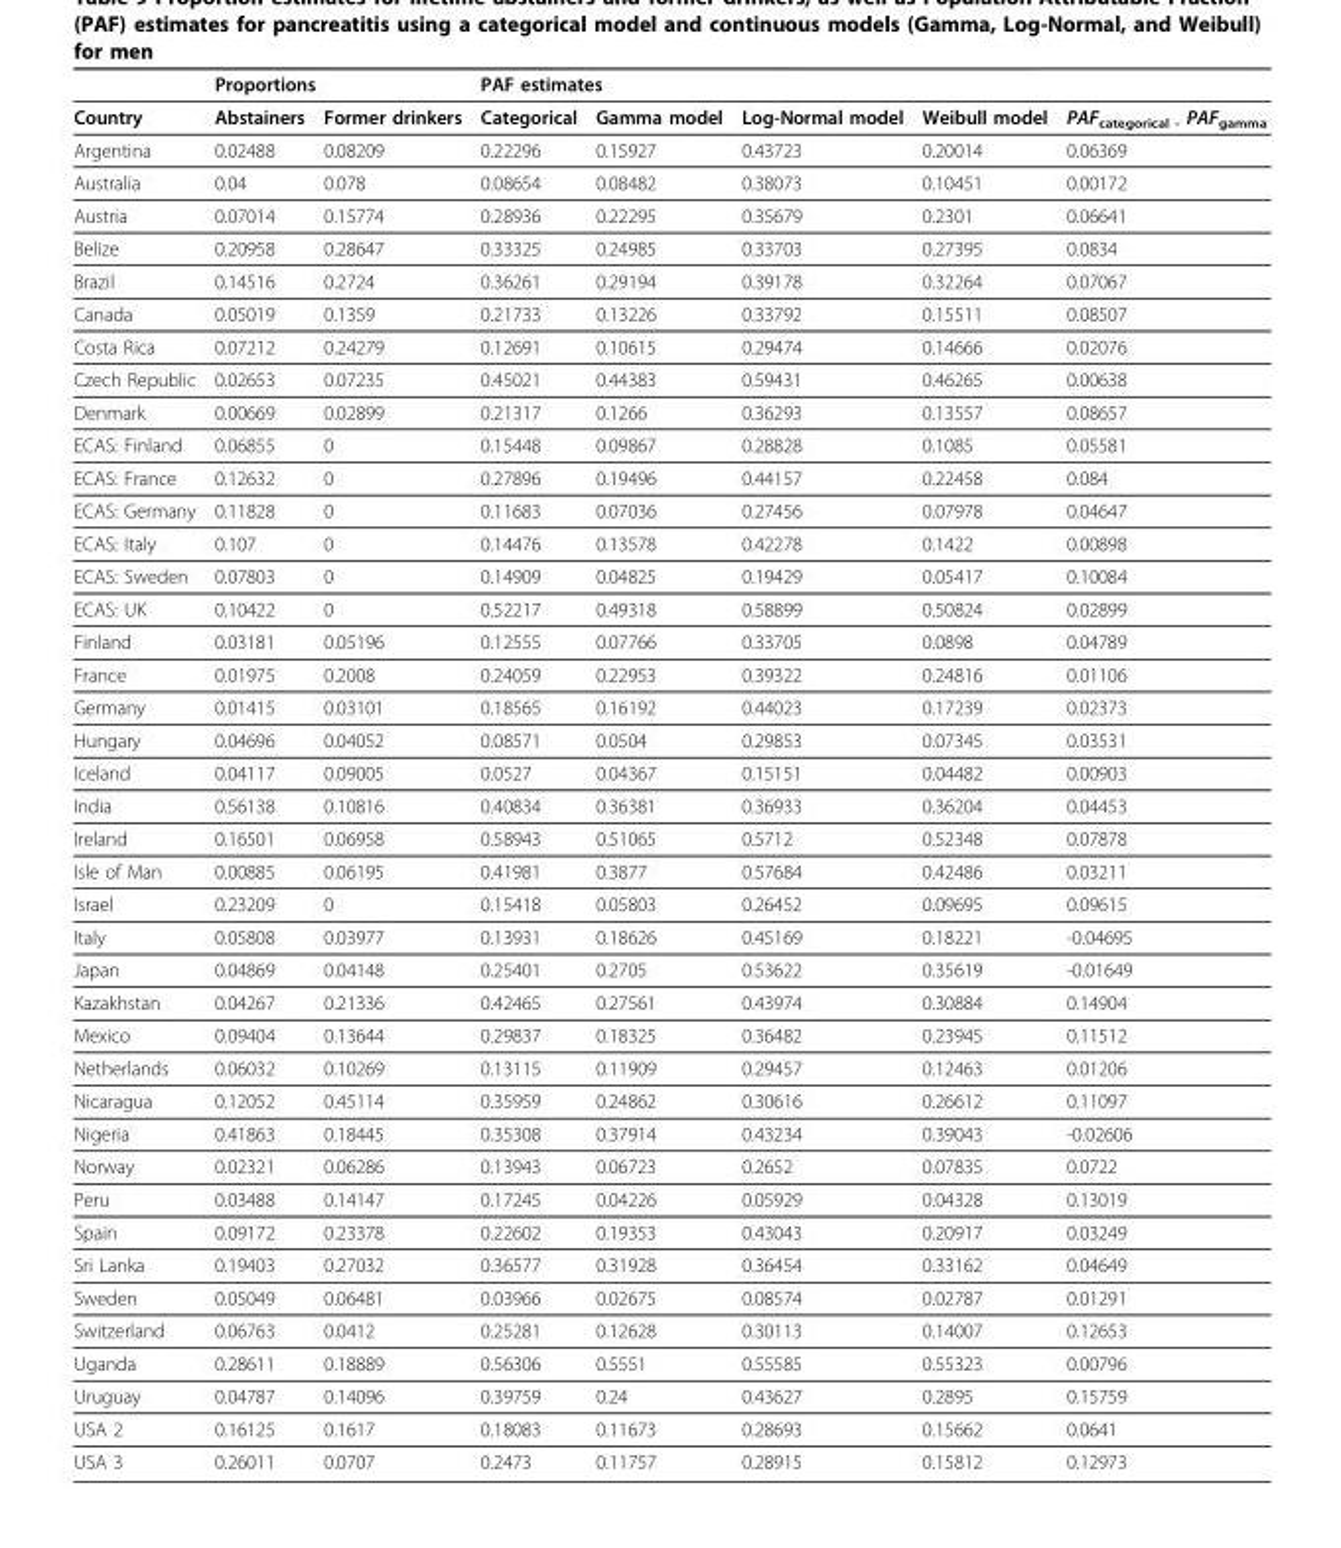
<table><thead><tr><td rowspan="2">Country</td><td colspan="2">Proportions</td><td colspan="4">PAF estimates</td><td rowspan="2">PAFcategorical - PAFgamma</td></tr><tr><td>Abstainers</td><td>Former drinkers</td><td>Categorical</td><td>Gamma model</td><td>Log-Normal model</td><td>Weibull model</td></tr></thead><tbody><tr><td>Argentina</td><td>0.02488</td><td>0.08209</td><td>0.22296</td><td>0.15927</td><td>0.43723</td><td>0.20014</td><td>0.06369</td></tr><tr><td>Australia</td><td>0.04</td><td>0.078</td><td>0.08654</td><td>0.08482</td><td>0.38073</td><td>0.10451</td><td>0.00172</td></tr><tr><td>Austria</td><td>0.07014</td><td>0.15774</td><td>0.28936</td><td>0.22295</td><td>0.35679</td><td>0.2301</td><td>0.06641</td></tr><tr><td>Belize</td><td>0.20958</td><td>0.28647</td><td>0.33325</td><td>0.24985</td><td>0.33703</td><td>0.27395</td><td>0.0834</td></tr><tr><td>Brazil</td><td>0.14516</td><td>0.2724</td><td>0.36261</td><td>0.29194</td><td>0.39178</td><td>0.32264</td><td>0.07067</td></tr><tr><td>Canada</td><td>0.05019</td><td>0.1359</td><td>0.21733</td><td>0.13226</td><td>0.33792</td><td>0.15511</td><td>0.08507</td></tr><tr><td>Costa Rica</td><td>0.07212</td><td>0.24279</td><td>0.12691</td><td>0.10615</td><td>0.29474</td><td>0.14666</td><td>0.02076</td></tr><tr><td>Czech Republic</td><td>0.02653</td><td>0.07235</td><td>0.45021</td><td>0.44383</td><td>0.59431</td><td>0.46265</td><td>0.00638</td></tr><tr><td>Denmark</td><td>0.00669</td><td>0.02899</td><td>0.21317</td><td>0.1266</td><td>0.36293</td><td>0.13557</td><td>0.08657</td></tr><tr><td>ECAS: Finland</td><td>0.06855</td><td>0</td><td>0.15448</td><td>0.09867</td><td>0.28828</td><td>0.1085</td><td>0.05581</td></tr><tr><td>ECAS: France</td><td>0.12632</td><td>0</td><td>0.27896</td><td>0.19496</td><td>0.44157</td><td>0.22458</td><td>0.084</td></tr><tr><td>ECAS: Germany</td><td>0.11828</td><td>0</td><td>0.11683</td><td>0.07036</td><td>0.27456</td><td>0.07978</td><td>0.04647</td></tr><tr><td>ECAS: Italy</td><td>0.107</td><td>0</td><td>0.14476</td><td>0.13578</td><td>0.42278</td><td>0.1422</td><td>0.00898</td></tr><tr><td>ECAS: Sweden</td><td>0.07803</td><td>0</td><td>0.14909</td><td>0.04825</td><td>0.19429</td><td>0.05417</td><td>0.10084</td></tr><tr><td>ECAS: UK</td><td>0.10422</td><td>0</td><td>0.52217</td><td>0.49318</td><td>0.58899</td><td>0.50824</td><td>0.02899</td></tr><tr><td>Finland</td><td>0.03181</td><td>0.05196</td><td>0.12555</td><td>0.07766</td><td>0.33705</td><td>0.0898</td><td>0.04789</td></tr><tr><td>France</td><td>0.01975</td><td>0.2008</td><td>0.24059</td><td>0.22953</td><td>0.39322</td><td>0.24816</td><td>0.01106</td></tr><tr><td>Germany</td><td>0.01415</td><td>0.03101</td><td>0.18565</td><td>0.16192</td><td>0.44023</td><td>0.17239</td><td>0.02373</td></tr><tr><td>Hungary</td><td>0.04696</td><td>0.04052</td><td>0.08571</td><td>0.0504</td><td>0.29853</td><td>0.07345</td><td>0.03531</td></tr><tr><td>Iceland</td><td>0.04117</td><td>0.09005</td><td>0.0527</td><td>0.04367</td><td>0.15151</td><td>0.04482</td><td>0.00903</td></tr><tr><td>India</td><td>0.56138</td><td>0.10816</td><td>0.40834</td><td>0.36381</td><td>0.36933</td><td>0.36204</td><td>0.04453</td></tr><tr><td>Ireland</td><td>0.16501</td><td>0.06958</td><td>0.58943</td><td>0.51065</td><td>0.5712</td><td>0.52348</td><td>0.07878</td></tr><tr><td>Isle of Man</td><td>0.00885</td><td>0.06195</td><td>0.41981</td><td>0.3877</td><td>0.57684</td><td>0.42486</td><td>0.03211</td></tr><tr><td>Israel</td><td>0.23209</td><td>0</td><td>0.15418</td><td>0.05803</td><td>0.26452</td><td>0.09695</td><td>0.09615</td></tr><tr><td>Italy</td><td>0.05808</td><td>0.03977</td><td>0.13931</td><td>0.18626</td><td>0.45169</td><td>0.18221</td><td>-0.04695</td></tr><tr><td>Japan</td><td>0.04869</td><td>0.04148</td><td>0.25401</td><td>0.2705</td><td>0.53622</td><td>0.35619</td><td>-0.01649</td></tr><tr><td>Kazakhstan</td><td>0.04267</td><td>0.21336</td><td>0.42465</td><td>0.27561</td><td>0.43974</td><td>0.30884</td><td>0.14904</td></tr><tr><td>Mexico</td><td>0.09404</td><td>0.13644</td><td>0.29837</td><td>0.18325</td><td>0.36482</td><td>0.23945</td><td>0.11512</td></tr><tr><td>Netherlands</td><td>0.06032</td><td>0.10269</td><td>0.13115</td><td>0.11909</td><td>0.29457</td><td>0.12463</td><td>0.01206</td></tr><tr><td>Nicaragua</td><td>0.12052</td><td>0.45114</td><td>0.35959</td><td>0.24862</td><td>0.30616</td><td>0.26612</td><td>0.11097</td></tr><tr><td>Nigeria</td><td>0.41863</td><td>0.18445</td><td>0.35308</td><td>0.37914</td><td>0.43234</td><td>0.39043</td><td>-0.02606</td></tr><tr><td>Norway</td><td>0.02321</td><td>0.06286</td><td>0.13943</td><td>0.06723</td><td>0.2652</td><td>0.07835</td><td>0.0722</td></tr><tr><td>Peru</td><td>0.03488</td><td>0.14147</td><td>0.17245</td><td>0.04226</td><td>0.05929</td><td>0.04328</td><td>0.13019</td></tr><tr><td>Spain</td><td>0.09172</td><td>0.23378</td><td>0.22602</td><td>0.19353</td><td>0.43043</td><td>0.20917</td><td>0.03249</td></tr><tr><td>Sri Lanka</td><td>0.19403</td><td>0.27032</td><td>0.36577</td><td>0.31928</td><td>0.36454</td><td>0.33162</td><td>0.04649</td></tr><tr><td>Sweden</td><td>0.05049</td><td>0.06481</td><td>0.03966</td><td>0.02675</td><td>0.08574</td><td>0.02787</td><td>0.01291</td></tr><tr><td>Switzerland</td><td>0.06763</td><td>0.0412</td><td>0.25281</td><td>0.12628</td><td>0.30113</td><td>0.14007</td><td>0.12653</td></tr><tr><td>Uganda</td><td>0.28611</td><td>0.18889</td><td>0.56306</td><td>0.5551</td><td>0.55585</td><td>0.55323</td><td>0.00796</td></tr><tr><td>Uruguay</td><td>0.04787</td><td>0.14096</td><td>0.39759</td><td>0.24</td><td>0.43627</td><td>0.2895</td><td>0.15759</td></tr><tr><td>USA 2</td><td>0.16125</td><td>0.1617</td><td>0.18083</td><td>0.11673</td><td>0.28693</td><td>0.15662</td><td>0.0641</td></tr><tr><td>USA 3</td><td>0.26011</td><td>0.0707</td><td>0.2473</td><td>0.11757</td><td>0.28915</td><td>0.15812</td><td>0.12973</td></tr></tbody></table>